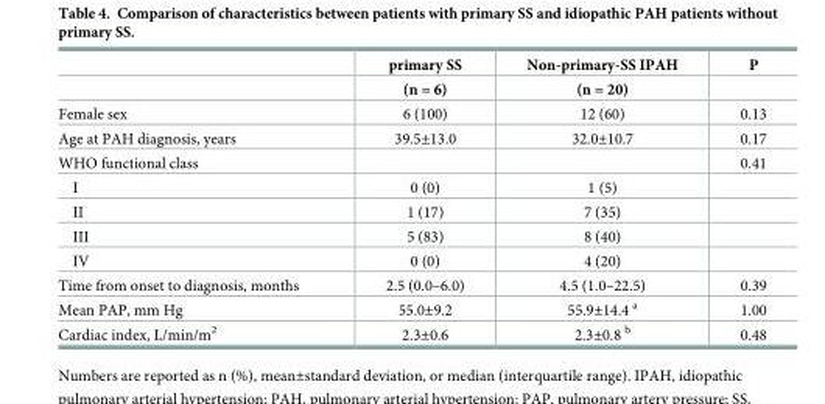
<table><thead><tr><td rowspan="2"></td><td rowspan="2">primary SS (n = 6)</td><td rowspan="2">Non-primary-SS IPAH (n = 20)</td><td rowspan="2">P</td></tr><tr></tr></thead><tbody><tr><td>Female sex</td><td>6 (100)</td><td>12 (60)</td><td>0.13</td></tr><tr><td>Age at PAH diagnosis, years</td><td>39.5±13.0</td><td>32.0±10.7</td><td>0.17</td></tr><tr><td>WHO functional class</td><td></td><td></td><td>0.41</td></tr><tr><td>I</td><td>0 (0)</td><td>1 (5)</td><td></td></tr><tr><td>II</td><td>1 (17)</td><td>7 (35)</td><td></td></tr><tr><td>III</td><td>5 (83)</td><td>8 (40)</td><td></td></tr><tr><td>IV</td><td>0 (0)</td><td>4 (20)</td><td></td></tr><tr><td>Time from onset to diagnosis, months</td><td>2.5 (0.0–6.0)</td><td>4.5 (1.0–22.5)</td><td>0.39</td></tr><tr><td>Mean PAP, mm Hg</td><td>55.0±9.2</td><td>55.9±14.4 <sup>a</sup></td><td>1.00</td></tr><tr><td>Cardiac index, L/min/m<sup>2</sup></td><td>2.3±0.6</td><td>2.3±0.8 <sup>b</sup></td><td>0.48</td></tr></tbody></table>